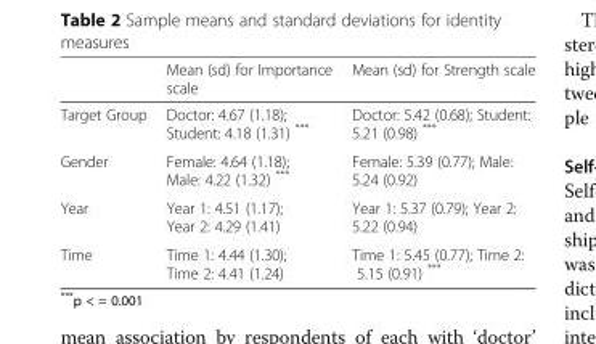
<table><thead><tr><td></td><td>Mean (sd) for Importance scale</td><td>Mean (sd) for Strength scale</td></tr></thead><tbody><tr><td>Target Group</td><td>Doctor: 4.67 (1.18); Student: 4.18 (1.31) ***</td><td>Doctor: 5.42 (0.68); Student: 5.21 (0.98) ***</td></tr><tr><td>Gender</td><td>Female: 4.64 (1.18); Male: 4.22 (1.32) ***</td><td>Female: 5.39 (0.77); Male: 5.24 (0.92)</td></tr><tr><td>Year</td><td>Year 1: 4.51 (1.17); Year 2: 4.29 (1.41)</td><td>Year 1: 5.37 (0.79); Year 2: 5.22 (0.94)</td></tr><tr><td>Time</td><td>Time 1: 4.44 (1.30); Time 2: 4.41 (1.24)</td><td>Time 1: 5.45 (0.77); Time 2: 5.15 (0.91) ***</td></tr></tbody></table>